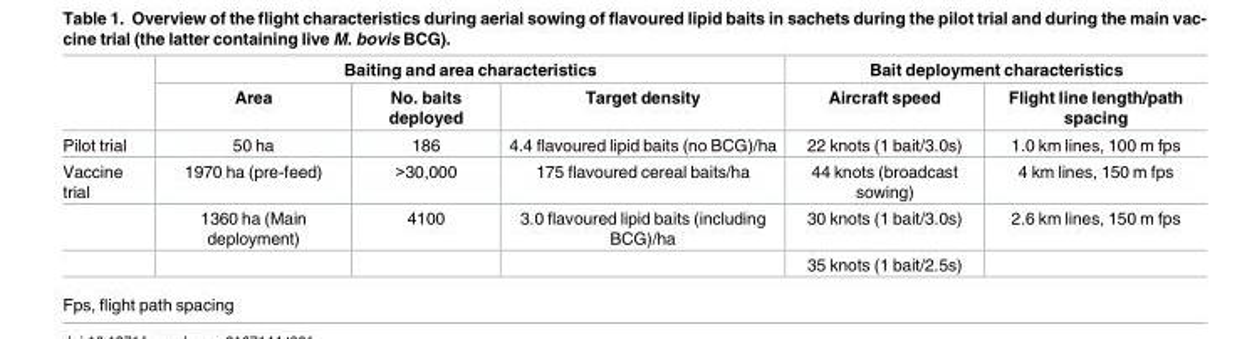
<table><thead><tr><td rowspan="2"></td><td colspan="3">Baiting and area characteristics</td><td colspan="2">Bait deployment characteristics</td></tr><tr><td>Area</td><td>No. baits deployed</td><td>Target density</td><td>Aircraft speed</td><td>Flight line length/path spacing</td></tr></thead><tbody><tr><td>Pilot trial</td><td>50 ha</td><td>186</td><td>4.4 flavoured lipid baits (no BCG)/ha</td><td>22 knots (1 bait/3.0s)</td><td>1.0 km lines, 100 m fps</td></tr><tr><td rowspan="3">Vaccine trial</td><td>1970 ha (pre-feed)</td><td>&gt;30,000</td><td>175 flavoured cereal baits/ha</td><td>44 knots (broadcast sowing)</td><td>4 km lines, 150 m fps</td></tr><tr><td>1360 ha (Main deployment)</td><td>4100</td><td>3.0 flavoured lipid baits (including BCG)/ha</td><td>30 knots (1 bait/3.0s)</td><td>2.6 km lines, 150 m fps</td></tr><tr><td></td><td></td><td></td><td>35 knots (1 bait/2.5s)</td><td></td></tr></tbody></table>